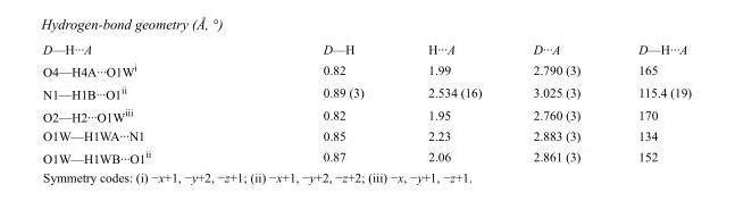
<table><tbody><tr><td>D—H···A</td><td>D—H</td><td>H···A</td><td>D···A</td><td>D—H···A</td></tr><tr><td>O4—H4A···O1W<sup>i</sup></td><td>0.82</td><td>1.99</td><td>2.790 (3)</td><td>165</td></tr><tr><td>N1—H1B···O1<sup>ii</sup></td><td>0.89 (3)</td><td>2.534 (16)</td><td>3.025 (3)</td><td>115.4 (19)</td></tr><tr><td>O2—H2···O1W<sup>iii</sup></td><td>0.82</td><td>1.95</td><td>2.760 (3)</td><td>170</td></tr><tr><td>O1W—H1WA···N1</td><td>0.85</td><td>2.23</td><td>2.883 (3)</td><td>134</td></tr><tr><td>O1W—H1WB···O1<sup>ii</sup></td><td>0.87</td><td>2.06</td><td>2.861 (3)</td><td>152</td></tr></tbody></table>